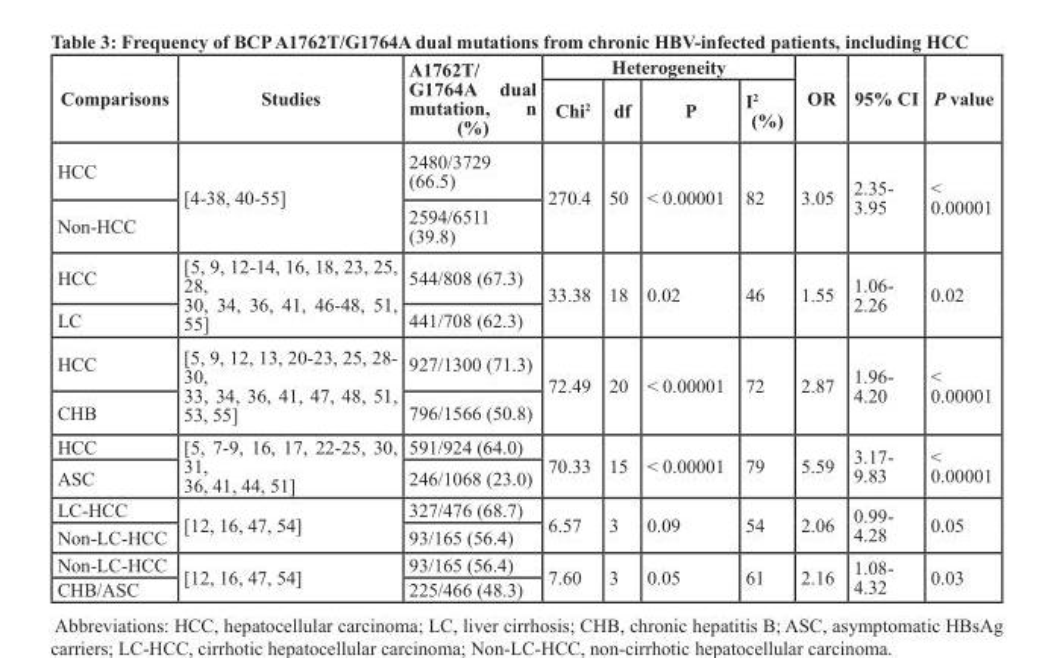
<table><thead><tr><td rowspan="2">Comparisons</td><td rowspan="2">Studies</td><td rowspan="2">A1762T/ G1764A dual mutation, n (%)</td><td colspan="4">Heterogeneity</td><td rowspan="2">OR</td><td rowspan="2">95% CI</td><td rowspan="2">P value</td></tr><tr><td>Chi<sup>2</sup></td><td>df</td><td>P</td><td>I<sup>2</sup> (%)</td></tr></thead><tbody><tr><td>HCC</td><td rowspan="2">[4-38, 40-55]</td><td>2480/3729 (66.5)</td><td rowspan="2">270.4</td><td rowspan="2">50</td><td rowspan="2">&lt; 0.00001</td><td rowspan="2">82</td><td rowspan="2">3.05</td><td rowspan="2">2.35- 3.95</td><td rowspan="2">&lt; 0.00001</td></tr><tr><td>Non-HCC</td><td>2594/6511 (39.8)</td></tr><tr><td>HCC</td><td rowspan="2">[5, 9, 12-14, 16, 18, 23, 25, 28, 30, 34, 36, 41, 46-48, 51, 55]</td><td>544/808 (67.3)</td><td rowspan="2">33.38</td><td rowspan="2">18</td><td rowspan="2">0.02</td><td rowspan="2">46</td><td rowspan="2">1.55</td><td rowspan="2">1.06- 2.26</td><td rowspan="2">0.02</td></tr><tr><td>LC</td><td>441/708 (62.3)</td></tr><tr><td>HCC</td><td rowspan="2">[5, 9, 12, 13, 20-23, 25, 28- 30, 33, 34, 36, 41, 47, 48, 51, 53, 55]</td><td>927/1300 (71.3)</td><td rowspan="2">72.49</td><td rowspan="2">20</td><td rowspan="2">&lt; 0.00001</td><td rowspan="2">72</td><td rowspan="2">2.87</td><td rowspan="2">1.96- 4.20</td><td rowspan="2">&lt; 0.00001</td></tr><tr><td>CHB</td><td>796/1566 (50.8)</td></tr><tr><td>HCC</td><td rowspan="2">[5, 7-9, 16, 17, 22-25, 30, 31, 36, 41, 44, 51]</td><td>591/924 (64.0)</td><td rowspan="2">70.33</td><td rowspan="2">15</td><td rowspan="2">&lt; 0.00001</td><td rowspan="2">79</td><td rowspan="2">5.59</td><td rowspan="2">3.17- 9.83</td><td rowspan="2">&lt; 0.00001</td></tr><tr><td>ASC</td><td>246/1068 (23.0)</td></tr><tr><td>LC-HCC</td><td rowspan="2">[12, 16, 47, 54]</td><td>327/476 (68.7)</td><td rowspan="2">6.57</td><td rowspan="2">3</td><td rowspan="2">0.09</td><td rowspan="2">54</td><td rowspan="2">2.06</td><td rowspan="2">0.99- 4.28</td><td rowspan="2">0.05</td></tr><tr><td>Non-LC-HCC</td><td>93/165 (56.4)</td></tr><tr><td>Non-LC-HCC</td><td rowspan="2">[12, 16, 47, 54]</td><td>93/165 (56.4)</td><td rowspan="2">7.60</td><td rowspan="2">3</td><td rowspan="2">0.05</td><td rowspan="2">61</td><td rowspan="2">2.16</td><td rowspan="2">1.08- 4.32</td><td rowspan="2">0.03</td></tr><tr><td>CHB/ASC</td><td>225/466 (48.3)</td></tr></tbody></table>